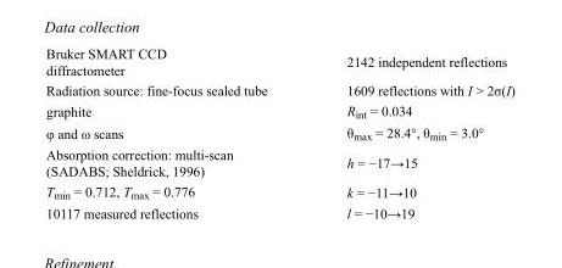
<table><tbody><tr><td>Bruker SMART CCD diffractometer</td><td>2142 independent reflections</td></tr><tr><td>Radiation source: fine-focus sealed tube</td><td>1609 reflections with I &gt; 2σ(I)</td></tr><tr><td>graphite</td><td>R<sub>int</sub> = 0.034</td></tr><tr><td>φ and ω scans</td><td>θ<sub>max</sub> = 28.4°, θ<sub>min</sub> = 3.0°</td></tr><tr><td>Absorption correction: multi-scan (SADABS; Sheldrick, 1996)</td><td>h = −17→15</td></tr><tr><td>T<sub>min</sub> = 0.712, T<sub>max</sub> = 0.776</td><td>k = −11→10</td></tr><tr><td>10117 measured reflections</td><td>l = −10→19</td></tr></tbody></table>